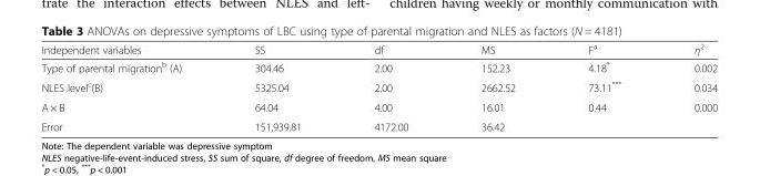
<table><thead><tr><td>Independent variables</td><td>SS</td><td>df</td><td>MS</td><td>F<sup>a</sup></td><td>η<sup>2</sup></td></tr></thead><tbody><tr><td>Type of parental migration<sup>b</sup> (A)</td><td>304.46</td><td>2.00</td><td>152.23</td><td>4.18*</td><td>0.002</td></tr><tr><td>NLES level<sup>c</sup>(B)</td><td>5325.04</td><td>2.00</td><td>2662.52</td><td>73.11***</td><td>0.034</td></tr><tr><td>A × B</td><td>64.04</td><td>4.00</td><td>16.01</td><td>0.44</td><td>0.000</td></tr><tr><td>Error</td><td>151,939.81</td><td>4172.00</td><td>36.42</td><td></td><td></td></tr></tbody></table>